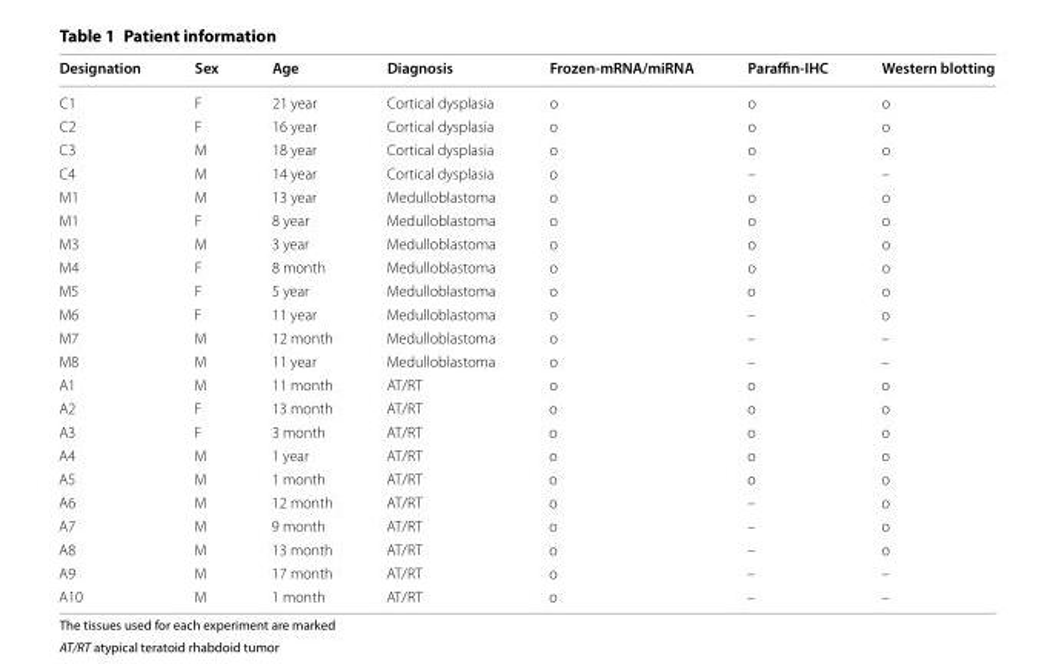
<table><thead><tr><td>Designation</td><td>Sex</td><td>Age</td><td>Diagnosis</td><td>Frozen‑mRNA/miRNA</td><td>Paraffin‑IHC</td><td>Western blotting</td></tr></thead><tbody><tr><td>C1</td><td>F</td><td>21 year</td><td>Cortical dysplasia</td><td>o</td><td>o</td><td>o</td></tr><tr><td>C2</td><td>F</td><td>16 year</td><td>Cortical dysplasia</td><td>o</td><td>o</td><td>o</td></tr><tr><td>C3</td><td>M</td><td>18 year</td><td>Cortical dysplasia</td><td>o</td><td>o</td><td>o</td></tr><tr><td>C4</td><td>M</td><td>14 year</td><td>Cortical dysplasia</td><td>o</td><td>–</td><td>–</td></tr><tr><td>M1</td><td>M</td><td>13 year</td><td>Medulloblastoma</td><td>o</td><td>o</td><td>o</td></tr><tr><td>M1</td><td>F</td><td>8 year</td><td>Medulloblastoma</td><td>o</td><td>o</td><td>o</td></tr><tr><td>M3</td><td>M</td><td>3 year</td><td>Medulloblastoma</td><td>o</td><td>o</td><td>o</td></tr><tr><td>M4</td><td>F</td><td>8 month</td><td>Medulloblastoma</td><td>o</td><td>o</td><td>o</td></tr><tr><td>M5</td><td>F</td><td>5 year</td><td>Medulloblastoma</td><td>o</td><td>o</td><td>o</td></tr><tr><td>M6</td><td>F</td><td>11 year</td><td>Medulloblastoma</td><td>o</td><td>–</td><td>o</td></tr><tr><td>M7</td><td>M</td><td>12 month</td><td>Medulloblastoma</td><td>o</td><td>–</td><td>–</td></tr><tr><td>M8</td><td>M</td><td>11 year</td><td>Medulloblastoma</td><td>o</td><td>–</td><td>–</td></tr><tr><td>A1</td><td>M</td><td>11 month</td><td>AT/RT</td><td>o</td><td>o</td><td>o</td></tr><tr><td>A2</td><td>F</td><td>13 month</td><td>AT/RT</td><td>o</td><td>o</td><td>o</td></tr><tr><td>A3</td><td>F</td><td>3 month</td><td>AT/RT</td><td>o</td><td>o</td><td>o</td></tr><tr><td>A4</td><td>M</td><td>1 year</td><td>AT/RT</td><td>o</td><td>o</td><td>o</td></tr><tr><td>A5</td><td>M</td><td>1 month</td><td>AT/RT</td><td>o</td><td>o</td><td>o</td></tr><tr><td>A6</td><td>M</td><td>12 month</td><td>AT/RT</td><td>o</td><td>–</td><td>o</td></tr><tr><td>A7</td><td>M</td><td>9 month</td><td>AT/RT</td><td>o</td><td>–</td><td>o</td></tr><tr><td>A8</td><td>M</td><td>13 month</td><td>AT/RT</td><td>o</td><td>–</td><td>o</td></tr><tr><td>A9</td><td>M</td><td>17 month</td><td>AT/RT</td><td>o</td><td>–</td><td>–</td></tr><tr><td>A10</td><td>M</td><td>1 month</td><td>AT/RT</td><td>o</td><td>–</td><td>–</td></tr></tbody></table>